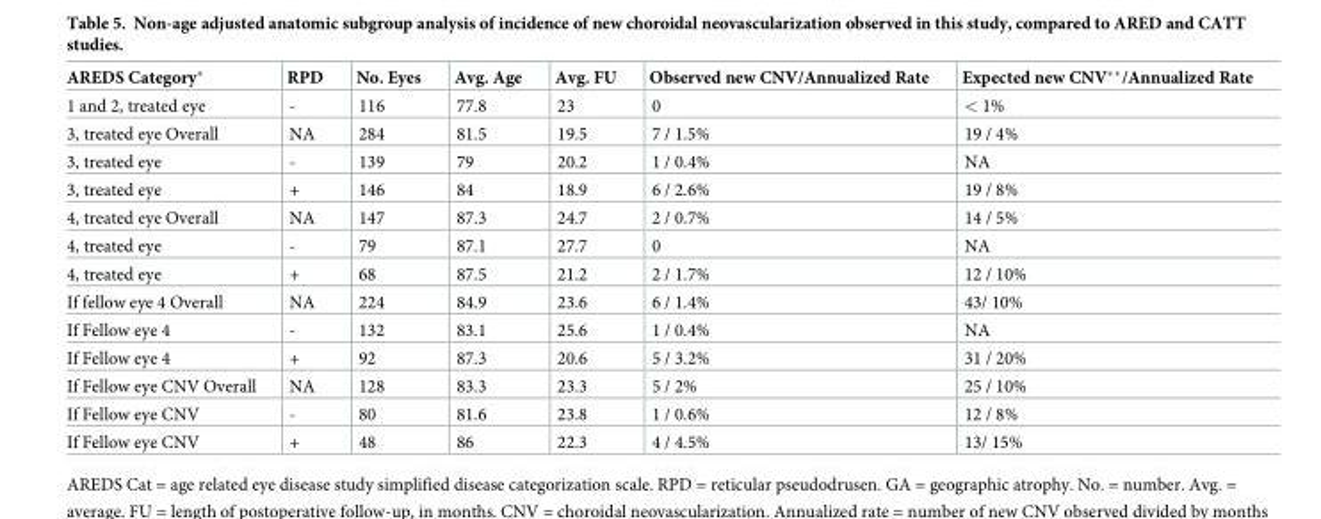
<table><thead><tr><td>AREDS Category*</td><td>RPD</td><td>No. Eyes</td><td>Avg. Age</td><td>Avg. FU</td><td>Observed new CNV/Annualized Rate</td><td>Expected new CNV**/Annualized Rate</td></tr></thead><tbody><tr><td>1 and 2, treated eye</td><td>-</td><td>116</td><td>77.8</td><td>23</td><td>0</td><td>&lt; 1%</td></tr><tr><td>3, treated eye Overall</td><td>NA</td><td>284</td><td>81.5</td><td>19.5</td><td>7 / 1.5%</td><td>19 / 4%</td></tr><tr><td>3, treated eye</td><td>-</td><td>139</td><td>79</td><td>20.2</td><td>1 / 0.4%</td><td>NA</td></tr><tr><td>3, treated eye</td><td>+</td><td>146</td><td>84</td><td>18.9</td><td>6 / 2.6%</td><td>19 / 8%</td></tr><tr><td>4, treated eye Overall</td><td>NA</td><td>147</td><td>87.3</td><td>24.7</td><td>2 / 0.7%</td><td>14 / 5%</td></tr><tr><td>4, treated eye</td><td>-</td><td>79</td><td>87.1</td><td>27.7</td><td>0</td><td>NA</td></tr><tr><td>4, treated eye</td><td>+</td><td>68</td><td>87.5</td><td>21.2</td><td>2 / 1.7%</td><td>12 / 10%</td></tr><tr><td>If fellow eye 4 Overall</td><td>NA</td><td>224</td><td>84.9</td><td>23.6</td><td>6 / 1.4%</td><td>43/ 10%</td></tr><tr><td>If Fellow eye 4</td><td>-</td><td>132</td><td>83.1</td><td>25.6</td><td>1 / 0.4%</td><td>NA</td></tr><tr><td>If Fellow eye 4</td><td>+</td><td>92</td><td>87.3</td><td>20.6</td><td>5 / 3.2%</td><td>31 / 20%</td></tr><tr><td>If Fellow eye CNV Overall</td><td>NA</td><td>128</td><td>83.3</td><td>23.3</td><td>5 / 2%</td><td>25 / 10%</td></tr><tr><td>If Fellow eye CNV</td><td>-</td><td>80</td><td>81.6</td><td>23.8</td><td>1 / 0.6%</td><td>12 / 8%</td></tr><tr><td>If Fellow eye CNV</td><td>+</td><td>48</td><td>86</td><td>22.3</td><td>4 / 4.5%</td><td>13/ 15%</td></tr></tbody></table>